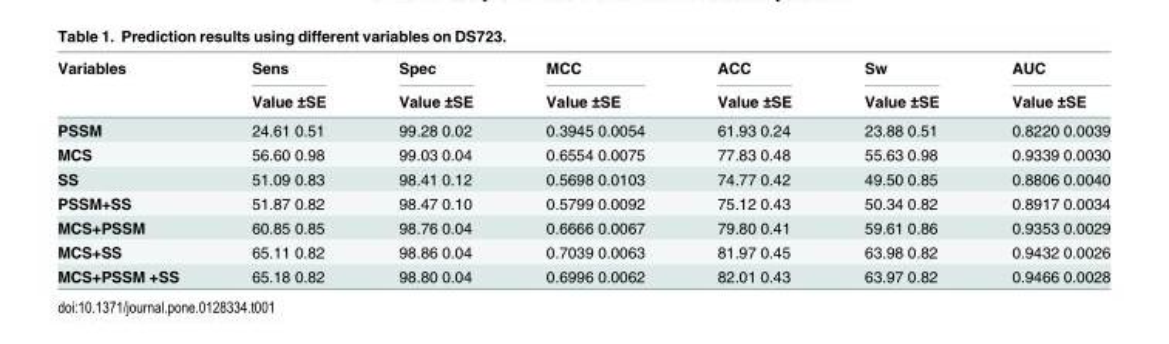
<table><thead><tr><td rowspan="2">Variables</td><td rowspan="2">Sens Value ±SE</td><td rowspan="2">Spec Value ±SE</td><td rowspan="2">MCC Value ±SE</td><td rowspan="2">ACC Value ±SE</td><td rowspan="2">Sw Value ±SE</td><td rowspan="2">AUC Value ±SE</td></tr><tr></tr></thead><tbody><tr><td>PSSM</td><td>24.61 0.51</td><td>99.28 0.02</td><td>0.3945 0.0054</td><td>61.93 0.24</td><td>23.88 0.51</td><td>0.8220 0.0039</td></tr><tr><td>MCS</td><td>56.60 0.98</td><td>99.03 0.04</td><td>0.6554 0.0075</td><td>77.83 0.48</td><td>55.63 0.98</td><td>0.9339 0.0030</td></tr><tr><td>SS</td><td>51.09 0.83</td><td>98.41 0.12</td><td>0.5698 0.0103</td><td>74.77 0.42</td><td>49.50 0.85</td><td>0.8806 0.0040</td></tr><tr><td>PSSM+SS</td><td>51.87 0.82</td><td>98.47 0.10</td><td>0.5799 0.0092</td><td>75.12 0.43</td><td>50.34 0.82</td><td>0.8917 0.0034</td></tr><tr><td>MCS+PSSM</td><td>60.85 0.85</td><td>98.76 0.04</td><td>0.6666 0.0067</td><td>79.80 0.41</td><td>59.61 0.86</td><td>0.9353 0.0029</td></tr><tr><td>MCS+SS</td><td>65.11 0.82</td><td>98.86 0.04</td><td>0.7039 0.0063</td><td>81.97 0.45</td><td>63.98 0.82</td><td>0.9432 0.0026</td></tr><tr><td>MCS+PSSM +SS</td><td>65.18 0.82</td><td>98.80 0.04</td><td>0.6996 0.0062</td><td>82.01 0.43</td><td>63.97 0.82</td><td>0.9466 0.0028</td></tr></tbody></table>